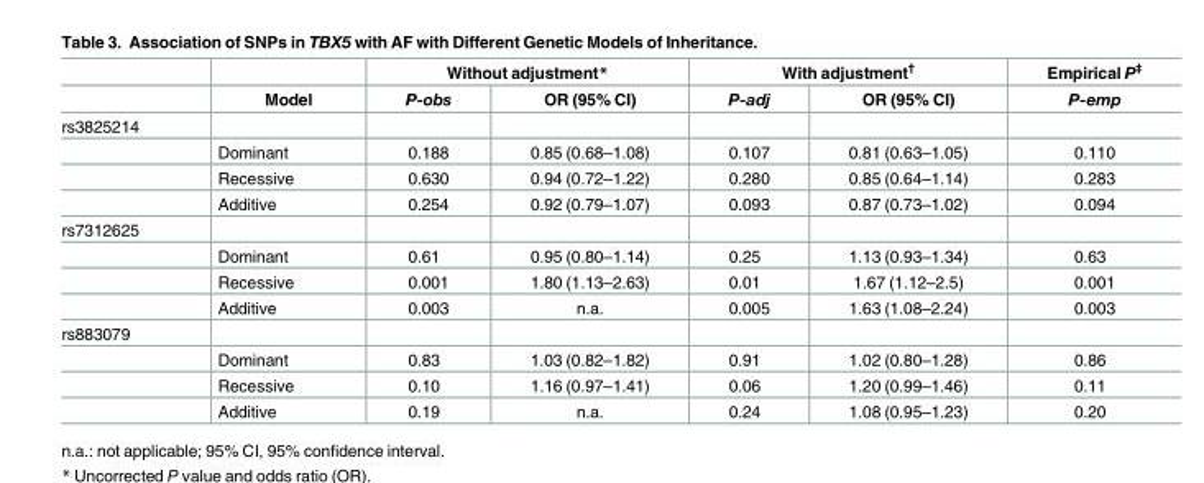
<table><thead><tr><td rowspan="2"></td><td rowspan="2">Model</td><td colspan="2">Without adjustment*</td><td colspan="2">With adjustment<sup>†</sup></td><td rowspan="2">Empirical P<sup>‡</sup> P-emp</td></tr><tr><td>P-obs</td><td>OR (95% CI)</td><td>P-adj</td><td>OR (95% CI)</td></tr></thead><tbody><tr><td colspan="7">rs3825214</td></tr><tr><td></td><td>Dominant</td><td>0.188</td><td>0.85 (0.68–1.08)</td><td>0.107</td><td>0.81 (0.63–1.05)</td><td>0.110</td></tr><tr><td></td><td>Recessive</td><td>0.630</td><td>0.94 (0.72–1.22)</td><td>0.280</td><td>0.85 (0.64–1.14)</td><td>0.283</td></tr><tr><td></td><td>Additive</td><td>0.254</td><td>0.92 (0.79–1.07)</td><td>0.093</td><td>0.87 (0.73–1.02)</td><td>0.094</td></tr><tr><td colspan="7">rs7312625</td></tr><tr><td></td><td>Dominant</td><td>0.61</td><td>0.95 (0.80–1.14)</td><td>0.25</td><td>1.13 (0.93–1.34)</td><td>0.63</td></tr><tr><td></td><td>Recessive</td><td>0.001</td><td>1.80 (1.13–2.63)</td><td>0.01</td><td>1.67 (1.12–2.5)</td><td>0.001</td></tr><tr><td></td><td>Additive</td><td>0.003</td><td>n.a.</td><td>0.005</td><td>1.63 (1.08–2.24)</td><td>0.003</td></tr><tr><td colspan="7">rs883079</td></tr><tr><td></td><td>Dominant</td><td>0.83</td><td>1.03 (0.82–1.82)</td><td>0.91</td><td>1.02 (0.80–1.28)</td><td>0.86</td></tr><tr><td></td><td>Recessive</td><td>0.10</td><td>1.16 (0.97–1.41)</td><td>0.06</td><td>1.20 (0.99–1.46)</td><td>0.11</td></tr><tr><td></td><td>Additive</td><td>0.19</td><td>n.a.</td><td>0.24</td><td>1.08 (0.95–1.23)</td><td>0.20</td></tr></tbody></table>